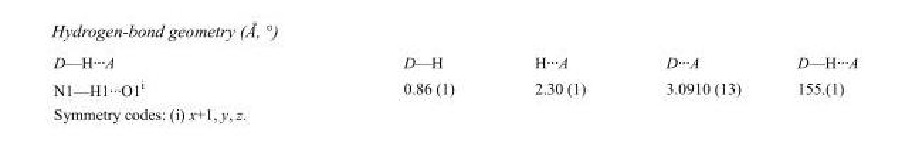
<table><tbody><tr><td>D—H···A</td><td>D—H</td><td>H···A</td><td>D···A</td><td>D—H···A</td></tr><tr><td>N1—H1···O1<sup>i</sup></td><td>0.86 (1)</td><td>2.30 (1)</td><td>3.0910 (13)</td><td>155.(1)</td></tr></tbody></table>